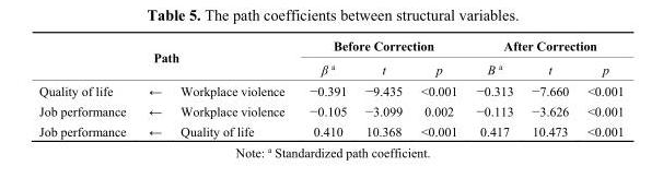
<table><thead><tr><td rowspan="2" colspan="3">Path</td><td colspan="3">Before Correction</td><td colspan="3">After Correction</td></tr><tr><td rowspan="2">β a −0.391</td><td rowspan="2">t −9.435</td><td rowspan="2">p &lt;0.001</td><td rowspan="2">Β a −0.313</td><td rowspan="2">t −7.660</td><td rowspan="2">p &lt;0.001</td></tr><tr><td>Quality of life</td><td>←</td><td>Workplace violence</td></tr></thead><tbody><tr><td>Job performance</td><td>←</td><td>Workplace violence</td><td>−0.105</td><td>−3.099</td><td>0.002</td><td>−0.113</td><td>−3.626</td><td>&lt;0.001</td></tr><tr><td>Job performance</td><td>←</td><td>Quality of life</td><td>0.410</td><td>10.368</td><td>&lt;0.001</td><td>0.417</td><td>10.473</td><td>&lt;0.001</td></tr></tbody></table>